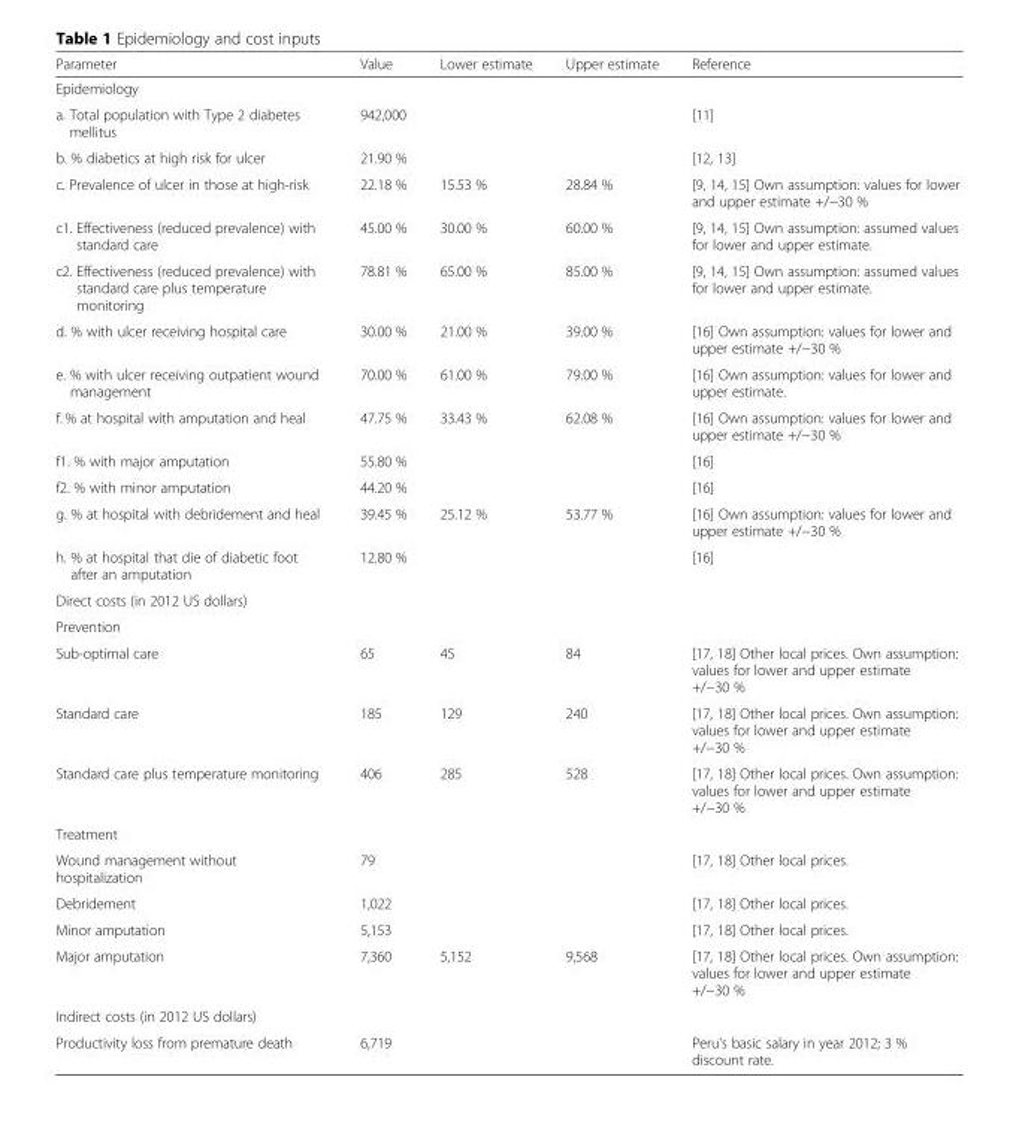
<table><thead><tr><td>Parameter</td><td>Value</td><td>Lower estimate</td><td>Upper estimate</td><td>Reference</td></tr></thead><tbody><tr><td colspan="5">Epidemiology</td></tr><tr><td>a. Total population with Type 2 diabetes mellitus</td><td colspan="3">942,000</td><td>[11]</td></tr><tr><td>b. % diabetics at high risk for ulcer</td><td colspan="3">21.90 %</td><td>[12, 13]</td></tr><tr><td>c. Prevalence of ulcer in those at high-risk</td><td>22.18 %</td><td>15.53 %</td><td>28.84 %</td><td>[9, 14, 15] Own assumption: values for lower and upper estimate +/−30 %</td></tr><tr><td>c1. Effectiveness (reduced prevalence) with standard care</td><td>45.00 %</td><td>30.00 %</td><td>60.00 %</td><td>[9, 14, 15] Own assumption: assumed values for lower and upper estimate.</td></tr><tr><td>c2. Effectiveness (reduced prevalence) with standard care plus temperature monitoring</td><td>78.81 %</td><td>65.00 %</td><td>85.00 %</td><td>[9, 14, 15] Own assumption: assumed values for lower and upper estimate.</td></tr><tr><td>d. % with ulcer receiving hospital care</td><td>30.00 %</td><td>21.00 %</td><td>39.00 %</td><td>[16] Own assumption: values for lower and upper estimate +/−30 %</td></tr><tr><td>e. % with ulcer receiving outpatient wound management</td><td>70.00 %</td><td>61.00 %</td><td>79.00 %</td><td>[16] Own assumption: values for lower and upper estimate.</td></tr><tr><td>f. % at hospital with amputation and heal</td><td>47.75 %</td><td>33.43 %</td><td>62.08 %</td><td>[16] Own assumption: values for lower and upper estimate +/−30 %</td></tr><tr><td>f1. % with major amputation</td><td colspan="3">55.80 %</td><td>[16]</td></tr><tr><td>f2. % with minor amputation</td><td colspan="3">44.20 %</td><td>[16]</td></tr><tr><td>g. % at hospital with debridement and heal</td><td>39.45 %</td><td>25.12 %</td><td>53.77 %</td><td>[16] Own assumption: values for lower and upper estimate +/−30 %</td></tr><tr><td>h. % at hospital that die of diabetic foot after an amputation</td><td colspan="3">12.80 %</td><td>[16]</td></tr><tr><td colspan="5">Direct costs (in 2012 US dollars)</td></tr><tr><td colspan="5">Prevention</td></tr><tr><td>Sub-optimal care</td><td>65</td><td>45</td><td>84</td><td>[17, 18] Other local prices. Own assumption: values for lower and upper estimate +/−30 %</td></tr><tr><td>Standard care</td><td>185</td><td>129</td><td>240</td><td>[17, 18] Other local prices. Own assumption: values for lower and upper estimate +/−30 %</td></tr><tr><td>Standard care plus temperature monitoring</td><td>406</td><td>285</td><td>528</td><td>[17, 18] Other local prices. Own assumption: values for lower and upper estimate +/−30 %</td></tr><tr><td colspan="5">Treatment</td></tr><tr><td>Wound management without hospitalization</td><td colspan="3">79</td><td>[17, 18] Other local prices.</td></tr><tr><td>Debridement</td><td colspan="3">1,022</td><td>[17, 18] Other local prices.</td></tr><tr><td>Minor amputation</td><td colspan="3">5,153</td><td>[17, 18] Other local prices.</td></tr><tr><td>Major amputation</td><td>7,360</td><td>5,152</td><td>9,568</td><td>[17, 18] Other local prices. Own assumption: values for lower and upper estimate +/−30 %</td></tr><tr><td colspan="5">Indirect costs (in 2012 US dollars)</td></tr><tr><td>Productivity loss from premature death</td><td colspan="3">6,719</td><td>Peru&#x27;s basic salary in year 2012; 3 % discount rate.</td></tr></tbody></table>